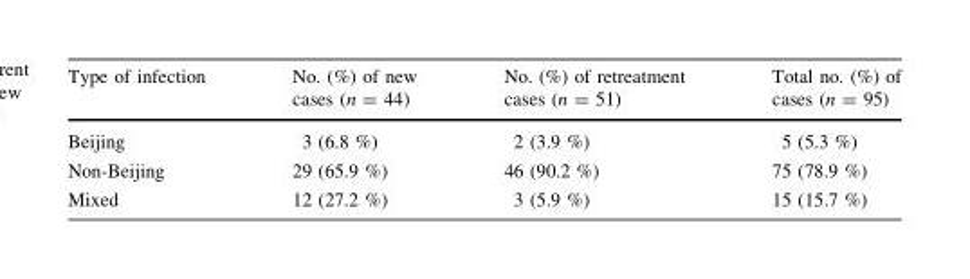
<table><thead><tr><td>Type of infection</td><td>No. (%) of new cases (n = 44)</td><td>No. (%) of retreatment cases (n = 51)</td><td>Total no. (%) of cases (n = 95)</td></tr></thead><tbody><tr><td>Beijing</td><td>3 (6.8 %)</td><td>2 (3.9 %)</td><td>5 (5.3 %)</td></tr><tr><td>Non-Beijing</td><td>29 (65.9 %)</td><td>46 (90.2 %)</td><td>75 (78.9 %)</td></tr><tr><td>Mixed</td><td>12 (27.2 %)</td><td>3 (5.9 %)</td><td>15 (15.7 %)</td></tr></tbody></table>